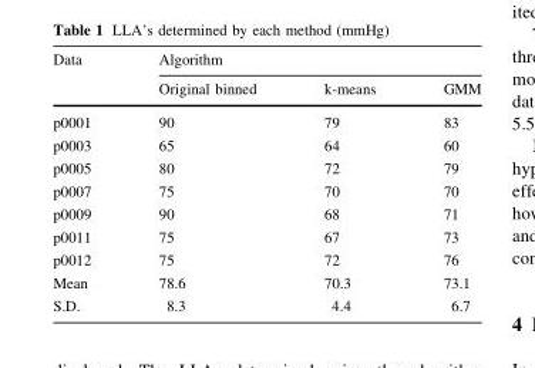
<table><thead><tr><td rowspan="2">Data</td><td colspan="3">Algorithm</td></tr><tr><td>Original binned</td><td>k-means</td><td>GMM</td></tr></thead><tbody><tr><td>p0001</td><td>90</td><td>79</td><td>83</td></tr><tr><td>p0003</td><td>65</td><td>64</td><td>60</td></tr><tr><td>p0005</td><td>80</td><td>72</td><td>79</td></tr><tr><td>p0007</td><td>75</td><td>70</td><td>70</td></tr><tr><td>p0009</td><td>90</td><td>68</td><td>71</td></tr><tr><td>p0011</td><td>75</td><td>67</td><td>73</td></tr><tr><td>p0012</td><td>75</td><td>72</td><td>76</td></tr><tr><td>Mean</td><td>78.6</td><td>70.3</td><td>73.1</td></tr><tr><td>S.D.</td><td>8.3</td><td>4.4</td><td>6.7</td></tr></tbody></table>